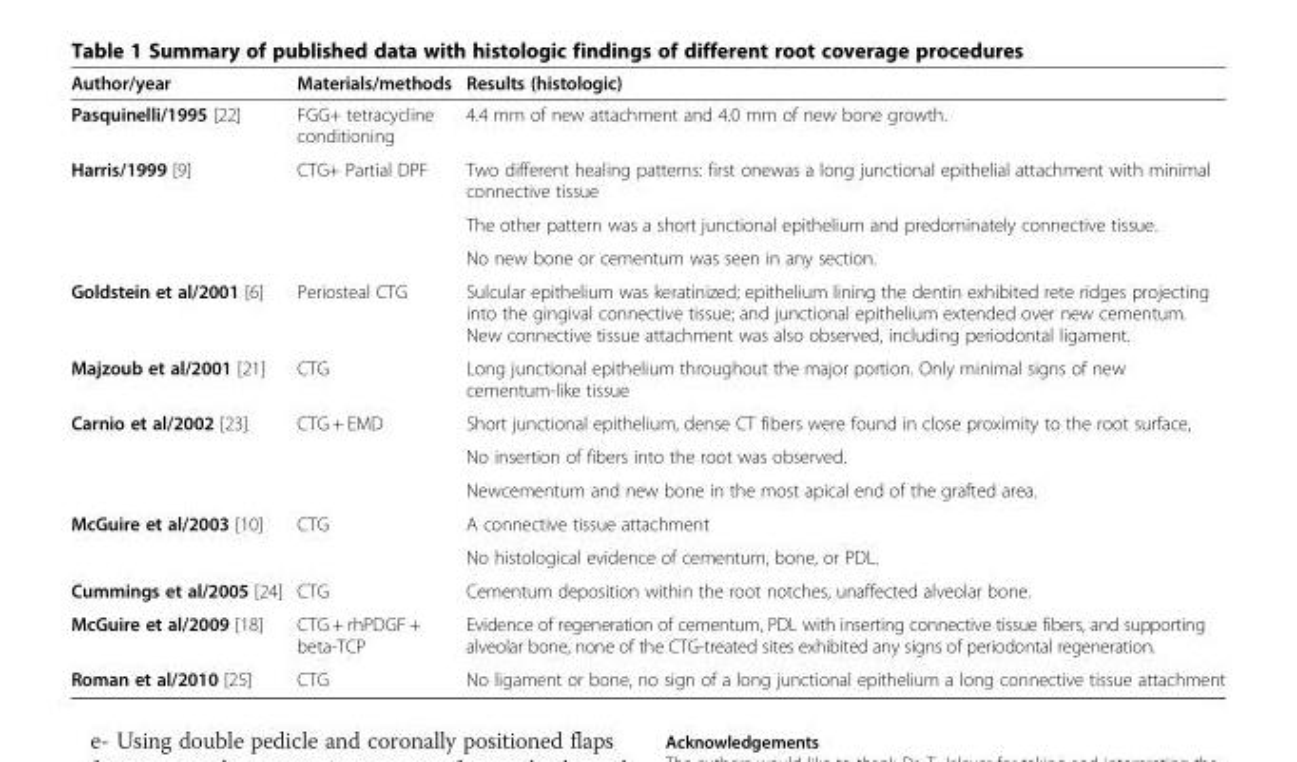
<table><thead><tr><td>Author/year</td><td>Materials/methods</td><td>Results (histologic)</td></tr></thead><tbody><tr><td>Pasquinelli/1995 [22]</td><td>FGG+ tetracycline conditioning</td><td>4.4 mm of new attachment and 4.0 mm of new bone growth.</td></tr><tr><td rowspan="3">Harris/1999 [9]</td><td rowspan="3">CTG+ Partial DPF</td><td>Two different healing patterns: first onewas a long junctional epithelial attachment with minimal connective tissue</td></tr><tr><td>The other pattern was a short junctional epithelium and predominately connective tissue.</td></tr><tr><td>No new bone or cementum was seen in any section.</td></tr><tr><td>Goldstein et al/2001 [6]</td><td>Periosteal CTG</td><td>Sulcular epithelium was keratinized; epithelium lining the dentin exhibited rete ridges projecting into the gingival connective tissue; and junctional epithelium extended over new cementum. New connective tissue attachment was also observed, including periodontal ligament.</td></tr><tr><td>Majzoub et al/2001 [21]</td><td>CTG</td><td>Long junctional epithelium throughout the major portion. Only minimal signs of new cementum-like tissue</td></tr><tr><td rowspan="3">Carnio et al/2002 [23]</td><td rowspan="3">CTG + EMD</td><td>Short junctional epithelium, dense CT fibers were found in close proximity to the root surface,</td></tr><tr><td>No insertion of fibers into the root was observed.</td></tr><tr><td>Newcementum and new bone in the most apical end of the grafted area.</td></tr><tr><td rowspan="2">McGuire et al/2003 [10]</td><td rowspan="2">CTG</td><td>A connective tissue attachment</td></tr><tr><td>No histological evidence of cementum, bone, or PDL.</td></tr><tr><td>Cummings et al/2005 [24]</td><td>CTG</td><td>Cementum deposition within the root notches, unaffected alveolar bone.</td></tr><tr><td>McGuire et al/2009 [18]</td><td>CTG + rhPDGF + beta-TCP</td><td>Evidence of regeneration of cementum, PDL with inserting connective tissue fibers, and supporting alveolar bone, none of the CTG-treated sites exhibited any signs of periodontal regeneration.</td></tr><tr><td>Roman et al/2010 [25]</td><td>CTG</td><td>No ligament or bone, no sign of a long junctional epithelium a long connective tissue attachment</td></tr></tbody></table>